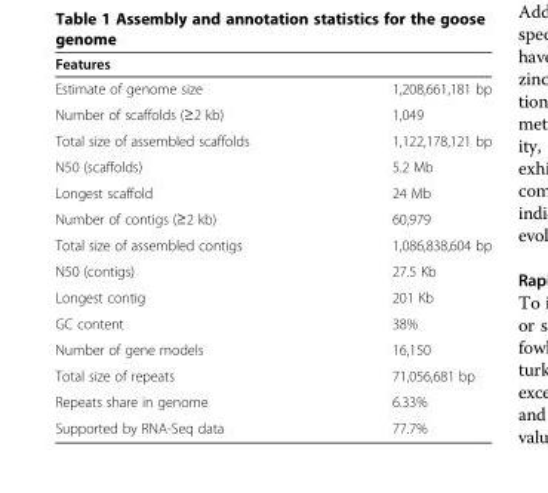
<table><thead><tr><td>Features</td><td></td></tr></thead><tbody><tr><td>Estimate of genome size</td><td>1,208,661,181 bp</td></tr><tr><td>Number of scaffolds (≥2 kb)</td><td>1,049</td></tr><tr><td>Total size of assembled scaffolds</td><td>1,122,178,121 bp</td></tr><tr><td>N50 (scaffolds)</td><td>5.2 Mb</td></tr><tr><td>Longest scaffold</td><td>24 Mb</td></tr><tr><td>Number of contigs (≥2 kb)</td><td>60,979</td></tr><tr><td>Total size of assembled contigs</td><td>1,086,838,604 bp</td></tr><tr><td>N50 (contigs)</td><td>27.5 Kb</td></tr><tr><td>Longest contig</td><td>201 Kb</td></tr><tr><td>GC content</td><td>38%</td></tr><tr><td>Number of gene models</td><td>16,150</td></tr><tr><td>Total size of repeats</td><td>71,056,681 bp</td></tr><tr><td>Repeats share in genome</td><td>6.33%</td></tr><tr><td>Supported by RNA-Seq data</td><td>77.7%</td></tr></tbody></table>